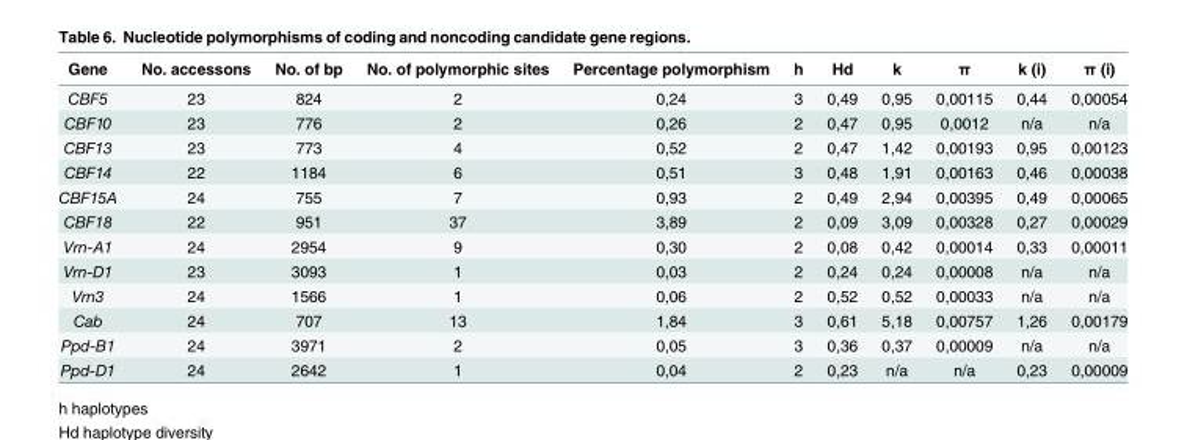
<table><thead><tr><td>Gene</td><td>No. accessons</td><td>No. of bp</td><td>No. of polymorphic sites</td><td>Percentage polymorphism</td><td>h</td><td>Hd</td><td>k</td><td>π</td><td>k (i)</td><td>π (i)</td></tr></thead><tbody><tr><td>CBF5</td><td>23</td><td>824</td><td>2</td><td>0,24</td><td>3</td><td>0,49</td><td>0,95</td><td>0,00115</td><td>0,44</td><td>0,00054</td></tr><tr><td>CBF10</td><td>23</td><td>776</td><td>2</td><td>0,26</td><td>2</td><td>0,47</td><td>0,95</td><td>0,0012</td><td>n/a</td><td>n/a</td></tr><tr><td>CBF13</td><td>23</td><td>773</td><td>4</td><td>0,52</td><td>2</td><td>0,47</td><td>1,42</td><td>0,00193</td><td>0,95</td><td>0,00123</td></tr><tr><td>CBF14</td><td>22</td><td>1184</td><td>6</td><td>0,51</td><td>3</td><td>0,48</td><td>1,91</td><td>0,00163</td><td>0,46</td><td>0,00038</td></tr><tr><td>CBF15A</td><td>24</td><td>755</td><td>7</td><td>0,93</td><td>2</td><td>0,49</td><td>2,94</td><td>0,00395</td><td>0,49</td><td>0,00065</td></tr><tr><td>CBF18</td><td>22</td><td>951</td><td>37</td><td>3,89</td><td>2</td><td>0,09</td><td>3,09</td><td>0,00328</td><td>0,27</td><td>0,00029</td></tr><tr><td>Vrn-A1</td><td>24</td><td>2954</td><td>9</td><td>0,30</td><td>2</td><td>0,08</td><td>0,42</td><td>0,00014</td><td>0,33</td><td>0,00011</td></tr><tr><td>Vrn-D1</td><td>23</td><td>3093</td><td>1</td><td>0,03</td><td>2</td><td>0,24</td><td>0,24</td><td>0,00008</td><td>n/a</td><td>n/a</td></tr><tr><td>Vrn3</td><td>24</td><td>1566</td><td>1</td><td>0,06</td><td>2</td><td>0,52</td><td>0,52</td><td>0,00033</td><td>n/a</td><td>n/a</td></tr><tr><td>Cab</td><td>24</td><td>707</td><td>13</td><td>1,84</td><td>3</td><td>0,61</td><td>5,18</td><td>0,00757</td><td>1,26</td><td>0,00179</td></tr><tr><td>Ppd-B1</td><td>24</td><td>3971</td><td>2</td><td>0,05</td><td>3</td><td>0,36</td><td>0,37</td><td>0,00009</td><td>n/a</td><td>n/a</td></tr><tr><td>Ppd-D1</td><td>24</td><td>2642</td><td>1</td><td>0,04</td><td>2</td><td>0,23</td><td>n/a</td><td>n/a</td><td>0,23</td><td>0,00009</td></tr></tbody></table>